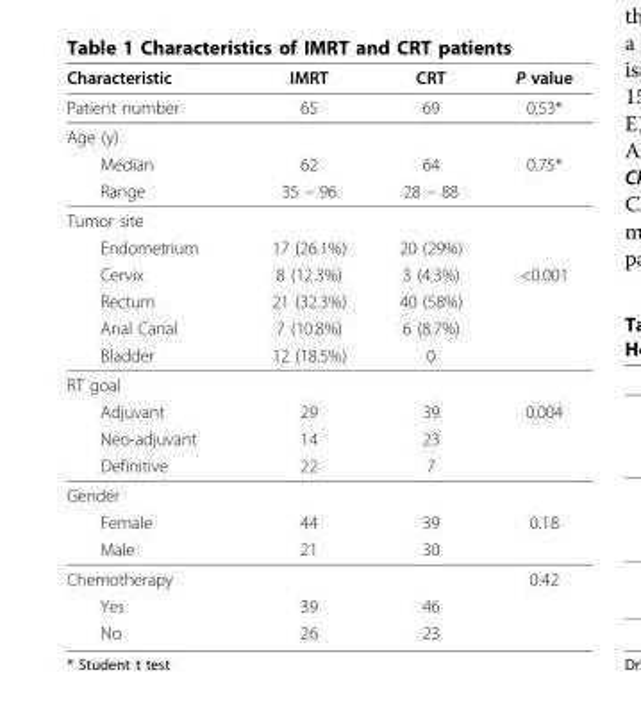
<table><thead><tr><td>Characteristic</td><td>IMRT</td><td>CRT</td><td>P value</td></tr></thead><tbody><tr><td>Patient number</td><td>65</td><td>69</td><td>0,53*</td></tr><tr><td colspan="4">Age (y)</td></tr><tr><td>Median</td><td>62</td><td>64</td><td>0.75*</td></tr><tr><td>Range</td><td>35 – 96</td><td>28 – 88</td><td></td></tr><tr><td colspan="4">Tumor site</td></tr><tr><td>Endometrium</td><td>17 (26.1%)</td><td>20 (29%)</td><td></td></tr><tr><td>Cervix</td><td>8 (12.3%)</td><td>3 (4.3%)</td><td>&lt;0.001</td></tr><tr><td>Rectum</td><td>21 (32.3%)</td><td>40 (58%)</td><td></td></tr><tr><td>Anal Canal</td><td>7 (10.8%)</td><td>6 (8.7%)</td><td></td></tr><tr><td>Bladder</td><td>12 (18.5%)</td><td>0</td><td></td></tr><tr><td colspan="4">RT goal</td></tr><tr><td>Adjuvant</td><td>29</td><td>39</td><td>0.004</td></tr><tr><td>Neo-adjuvant</td><td>14</td><td>23</td><td></td></tr><tr><td>Definitive</td><td>22</td><td>7</td><td></td></tr><tr><td colspan="4">Gender</td></tr><tr><td>Female</td><td>44</td><td>39</td><td>0.18</td></tr><tr><td>Male</td><td>21</td><td>30</td><td></td></tr><tr><td>Chemotherapy</td><td></td><td></td><td>0.42</td></tr><tr><td>Yes</td><td>39</td><td>46</td><td></td></tr><tr><td>No</td><td>26</td><td>23</td><td></td></tr></tbody></table>